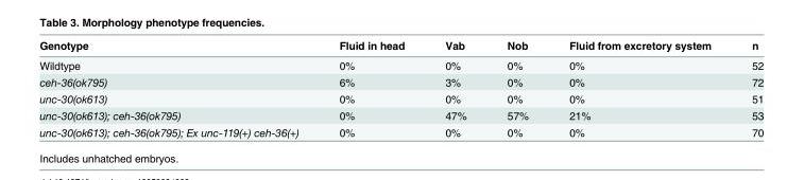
<table><thead><tr><td>Genotype</td><td>Fluid in head</td><td>Vab</td><td>Nob</td><td>Fluid from excretory system</td><td>n</td></tr></thead><tbody><tr><td>Wildtype</td><td>0%</td><td>0%</td><td>0%</td><td>0%</td><td>52</td></tr><tr><td>ceh-36(ok795)</td><td>6%</td><td>3%</td><td>0%</td><td>0%</td><td>72</td></tr><tr><td>unc-30(ok613)</td><td>0%</td><td>0%</td><td>0%</td><td>0%</td><td>51</td></tr><tr><td>unc-30(ok613); ceh-36(ok795)</td><td>0%</td><td>47%</td><td>57%</td><td>21%</td><td>53</td></tr><tr><td>unc-30(ok613); ceh-36(ok795); Ex unc-119(+) ceh-36(+)</td><td>0%</td><td>0%</td><td>0%</td><td>0%</td><td>70</td></tr></tbody></table>